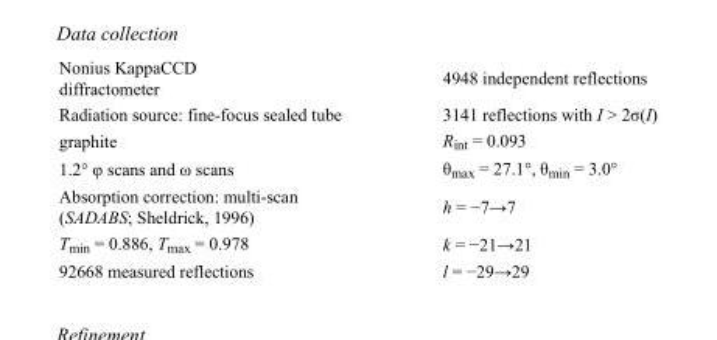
<table><tbody><tr><td>Nonius KappaCCD diffractometer</td><td>4948 independent reflections</td></tr><tr><td>Radiation source: fine-focus sealed tube</td><td>3141 reflections with I &gt; 2σ(I)</td></tr><tr><td>graphite</td><td>R<sub>int</sub> = 0.093</td></tr><tr><td>1.2° φ scans and ω scans</td><td>θ<sub>max</sub> = 27.1°, θ<sub>min</sub> = 3.0°</td></tr><tr><td>Absorption correction: multi-scan (SADABS; Sheldrick, 1996)</td><td>h = −7→7</td></tr><tr><td>T<sub>min</sub> = 0.886, T<sub>max</sub> = 0.978</td><td>k = −21→21</td></tr><tr><td>92668 measured reflections</td><td>l = −29→29</td></tr></tbody></table>